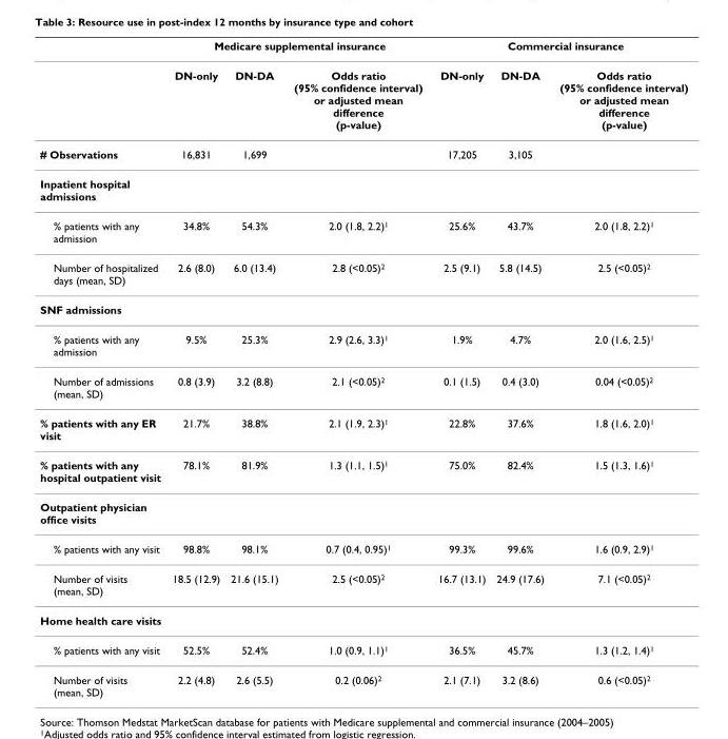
<table><thead><tr><td rowspan="2"></td><td colspan="3">Medicare supplemental insurance</td><td colspan="3">Commercial insurance</td></tr><tr><td>DN-only</td><td>DN-DA</td><td>Odds ratio (95% confidence interval) or adjusted mean difference (p-value)</td><td>DN-only</td><td>DN-DA</td><td>Odds ratio (95% confidence interval) or adjusted mean difference (p-value)</td></tr></thead><tbody><tr><td># Observations</td><td>16,831</td><td>1,699</td><td></td><td>17,205</td><td>3,105</td><td></td></tr><tr><td colspan="7">Inpatient hospital admissions</td></tr><tr><td>% patients with any admission</td><td>34.8%</td><td>54.3%</td><td>2.0 (1.8, 2.2)1</td><td>25.6%</td><td>43.7%</td><td>2.0 (1.8, 2.2)1</td></tr><tr><td>Number of hospitalized days (mean, SD)</td><td>2.6 (8.0)</td><td>6.0 (13.4)</td><td>2.8 (&lt;0.05)2</td><td>2.5 (9.1)</td><td>5.8 (14.5)</td><td>2.5 (&lt;0.05)2</td></tr><tr><td colspan="7">SNF admissions</td></tr><tr><td>% patients with any admission</td><td>9.5%</td><td>25.3%</td><td>2.9 (2.6, 3.3)1</td><td>1.9%</td><td>4.7%</td><td>2.0 (1.6, 2.5)1</td></tr><tr><td>Number of admissions (mean, SD)</td><td>0.8 (3.9)</td><td>3.2 (8.8)</td><td>2.1 (&lt;0.05)2</td><td>0.1 (1.5)</td><td>0.4 (3.0)</td><td>0.04 (&lt;0.05)2</td></tr><tr><td>% patients with any ER visit</td><td>21.7%</td><td>38.8%</td><td>2.1 (1.9, 2.3)1</td><td>22.8%</td><td>37.6%</td><td>1.8 (1.6, 2.0)1</td></tr><tr><td>% patients with any hospital outpatient visit</td><td>78.1%</td><td>81.9%</td><td>1.3 (1.1, 1.5)1</td><td>75.0%</td><td>82.4%</td><td>1.5 (1.3, 1.6)1</td></tr><tr><td colspan="7">Outpatient physician office visits</td></tr><tr><td>% patients with any visit</td><td>98.8%</td><td>98.1%</td><td>0.7 (0.4, 0.95)1</td><td>99.3%</td><td>99.6%</td><td>1.6 (0.9, 2.9)1</td></tr><tr><td>Number of visits (mean, SD)</td><td>18.5 (12.9)</td><td>21.6 (15.1)</td><td>2.5 (&lt;0.05)2</td><td>16.7 (13.1)</td><td>24.9 (17.6)</td><td>7.1 (&lt;0.05)2</td></tr><tr><td colspan="7">Home health care visits</td></tr><tr><td>% patients with any visit</td><td>52.5%</td><td>52.4%</td><td>1.0 (0.9, 1.1)1</td><td>36.5%</td><td>45.7%</td><td>1.3 (1.2, 1.4)1</td></tr><tr><td>Number of visits (mean, SD)</td><td>2.2 (4.8)</td><td>2.6 (5.5)</td><td>0.2 (0.06)2</td><td>2.1 (7.1)</td><td>3.2 (8.6)</td><td>0.6 (&lt;0.05)2</td></tr></tbody></table>